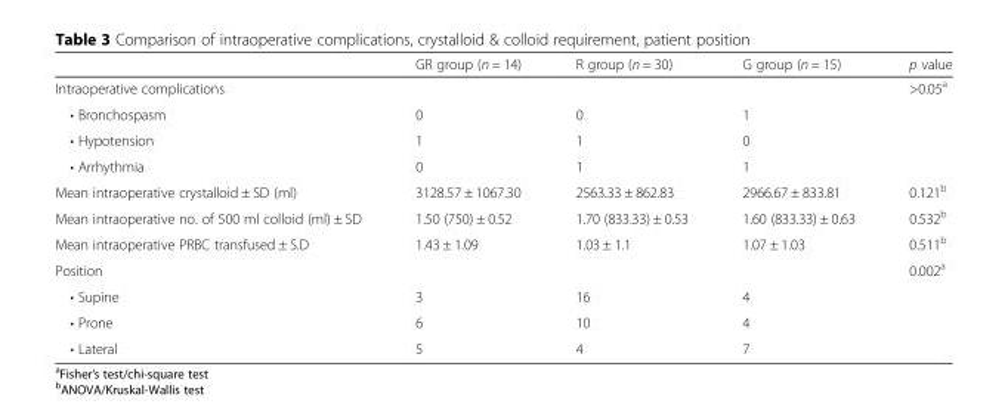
<table><thead><tr><td></td><td>GR group (n = 14)</td><td>R group (n = 30)</td><td>G group (n = 15)</td><td>p value</td></tr></thead><tbody><tr><td>Intraoperative complications</td><td></td><td></td><td></td><td>&gt;0.05<sup>a</sup></td></tr><tr><td>• Bronchospasm</td><td>0</td><td>0</td><td>1</td><td></td></tr><tr><td>• Hypotension</td><td>1</td><td>1</td><td>0</td><td></td></tr><tr><td>• Arrhythmia</td><td>0</td><td>1</td><td>1</td><td></td></tr><tr><td>Mean intraoperative crystalloid ± SD (ml)</td><td>3128.57 ± 1067.30</td><td>2563.33 ± 862.83</td><td>2966.67 ± 833.81</td><td>0.121<sup>b</sup></td></tr><tr><td>Mean intraoperative no. of 500 ml colloid (ml) ± SD</td><td>1.50 (750) ± 0.52</td><td>1.70 (833.33) ± 0.53</td><td>1.60 (833.33) ± 0.63</td><td>0.532<sup>b</sup></td></tr><tr><td>Mean intraoperative PRBC transfused ± S.D</td><td>1.43 ± 1.09</td><td>1.03 ± 1.1</td><td>1.07 ± 1.03</td><td>0.511<sup>b</sup></td></tr><tr><td>Position</td><td></td><td></td><td></td><td>0.002<sup>a</sup></td></tr><tr><td>• Supine</td><td>3</td><td>16</td><td>4</td><td></td></tr><tr><td>• Prone</td><td>6</td><td>10</td><td>4</td><td></td></tr><tr><td>• Lateral</td><td>5</td><td>4</td><td>7</td><td></td></tr></tbody></table>